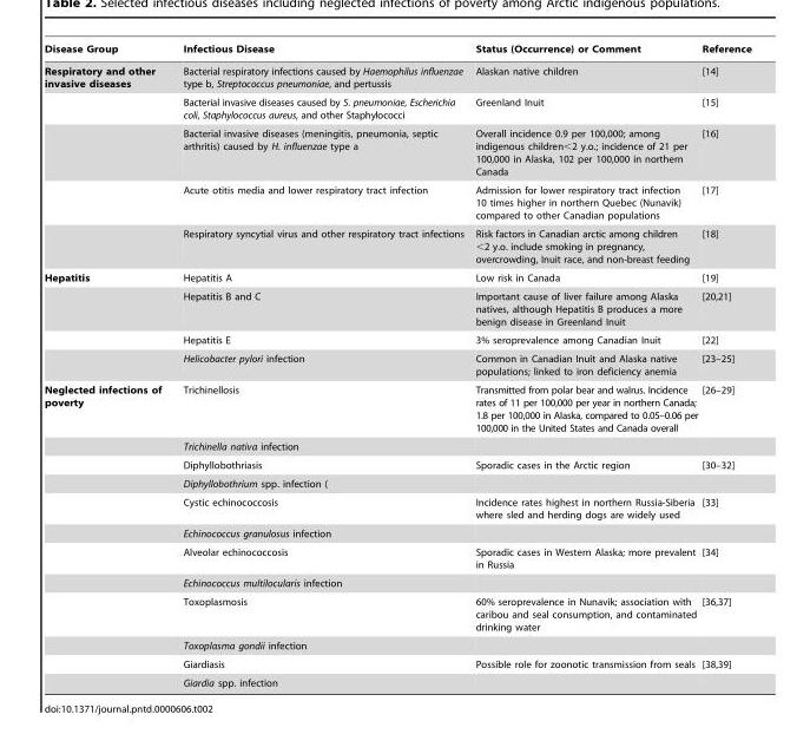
<table><thead><tr><td>Disease Group</td><td>Infectious Disease</td><td>Status (Occurrence) or Comment</td><td>Reference</td></tr></thead><tbody><tr><td rowspan="5">Respiratory and other invasive diseases</td><td>Bacterial respiratory infections caused by Haemophilus influenzae type b, Streptococcus pneumoniae, and pertussis</td><td>Alaskan native children</td><td>[14]</td></tr><tr><td>Bacterial invasive diseases caused by S. pneumoniae, Escherichia coli, Staphylococcus aureus, and other Staphylococci</td><td>Greenland Inuit</td><td>[15]</td></tr><tr><td>Bacterial invasive diseases (meningitis, pneumonia, septic arthritis) caused by H. influenzae type a</td><td>Overall incidence 0.9 per 100,000; among indigenous children&lt;2 y.o.; incidence of 21 per 100,000 in Alaska, 102 per 100,000 in northern Canada</td><td>[16]</td></tr><tr><td>Acute otitis media and lower respiratory tract infection</td><td>Admission for lower respiratory tract infection 10 times higher in northern Quebec (Nunavik) compared to other Canadian populations</td><td>[17]</td></tr><tr><td>Respiratory syncytial virus and other respiratory tract infections</td><td>Risk factors in Canadian arctic among children &lt;2 y.o. include smoking in pregnancy, overcrowding, Inuit race, and non-breast feeding</td><td>[18]</td></tr><tr><td rowspan="4">Hepatitis</td><td>Hepatitis A</td><td>Low risk in Canada</td><td>[19]</td></tr><tr><td>Hepatitis B and C</td><td>Important cause of liver failure among Alaska natives, although Hepatitis B produces a more benign disease in Greenland Inuit</td><td>[20,21]</td></tr><tr><td>Hepatitis E</td><td>3% seroprevalence among Canadian Inuit</td><td>[22]</td></tr><tr><td>Helicobacter pylori infection</td><td>Common in Canadian Inuit and Alaska native populations; linked to iron deficiency anemia</td><td>[23–25]</td></tr><tr><td rowspan="12">Neglected infections of poverty</td><td>Trichinellosis</td><td>Transmitted from polar bear and walrus. Incidence rates of 11 per 100,000 per year in northern Canada; 1.8 per 100,000 in Alaska, compared to 0.05–0.06 per 100,000 in the United States and Canada overall</td><td>[26–29]</td></tr><tr><td>Trichinella nativa infection</td><td></td><td></td></tr><tr><td>Diphyllobothriasis</td><td>Sporadic cases in the Arctic region</td><td>[30–32]</td></tr><tr><td>Diphyllobothrium spp. infection (</td><td></td><td></td></tr><tr><td>Cystic echinococcosis</td><td>Incidence rates highest in northern Russia-Siberia where sled and herding dogs are widely used</td><td>[33]</td></tr><tr><td>Echinococcus granulosus infection</td><td></td><td></td></tr><tr><td>Alveolar echinococcosis</td><td>Sporadic cases in Western Alaska; more prevalent in Russia</td><td>[34]</td></tr><tr><td>Echinococcus multilocularis infection</td><td></td><td></td></tr><tr><td>Toxoplasmosis</td><td>60% seroprevalence in Nunavik; association with caribou and seal consumption, and contaminated drinking water</td><td>[36,37]</td></tr><tr><td>Toxoplasma gondii infection</td><td></td><td></td></tr><tr><td>Giardiasis</td><td>Possible role for zoonotic transmission from seals</td><td>[38,39]</td></tr><tr><td>Giardia spp. infection</td><td></td><td></td></tr></tbody></table>